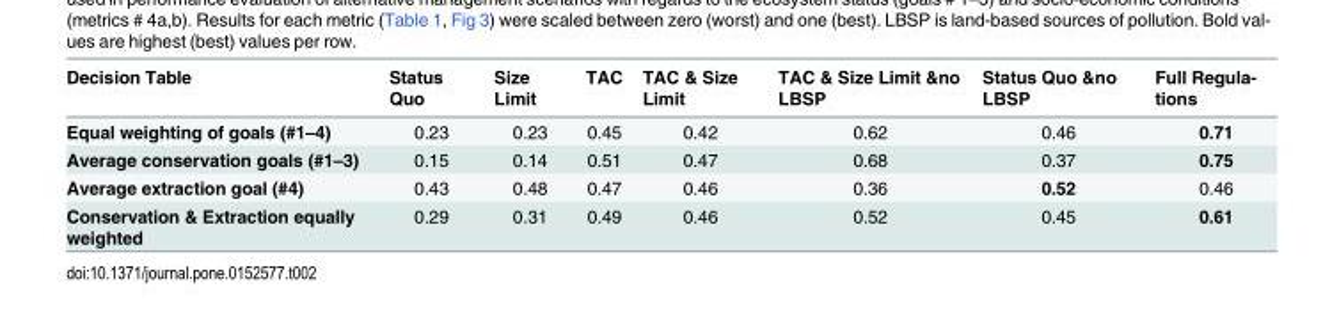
<table><thead><tr><td>Decision Table</td><td>Status Quo</td><td>Size Limit</td><td>TAC</td><td>TAC &amp; Size Limit</td><td>TAC &amp; Size Limit &amp;no LBSP</td><td>Status Quo &amp;no LBSP</td><td>Full Regula- tions</td></tr></thead><tbody><tr><td>Equal weighting of goals (#1–4)</td><td>0.23</td><td>0.23</td><td>0.45</td><td>0.42</td><td>0.62</td><td>0.46</td><td>0.71</td></tr><tr><td>Average conservation goals (#1–3)</td><td>0.15</td><td>0.14</td><td>0.51</td><td>0.47</td><td>0.68</td><td>0.37</td><td>0.75</td></tr><tr><td>Average extraction goal (#4)</td><td>0.43</td><td>0.48</td><td>0.47</td><td>0.46</td><td>0.36</td><td>0.52</td><td>0.46</td></tr><tr><td>Conservation &amp; Extraction equally weighted</td><td>0.29</td><td>0.31</td><td>0.49</td><td>0.46</td><td>0.52</td><td>0.45</td><td>0.61</td></tr></tbody></table>